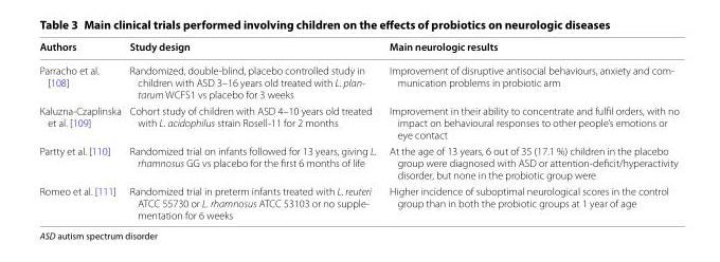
<table><thead><tr><td>Authors</td><td>Study design</td><td>Main neurologic results</td></tr></thead><tbody><tr><td>Parracho et al. [108]</td><td>Randomized, double-blind, placebo controlled study in children with ASD 3–16 years old treated with L. plan- tarum WCFS1 vs placebo for 3 weeks</td><td>Improvement of disruptive antisocial behaviours, anxiety and com- munication problems in probiotic arm</td></tr><tr><td>Kaluzna-Czaplinska et al. [109]</td><td>Cohort study of children with ASD 4–10 years old treated with L. acidophilus strain Rosell-11 for 2 months</td><td>Improvement in their ability to concentrate and fulfil orders, with no impact on behavioural responses to other people’s emotions or eye contact</td></tr><tr><td>Partty et al. [110]</td><td>Randomized trial on infants followed for 13 years, giving L. rhamnosus GG vs placebo for the first 6 months of life</td><td>At the age of 13 years, 6 out of 35 (17.1 %) children in the placebo group were diagnosed with ASD or attention-deficit/hyperactivity disorder, but none in the probiotic group were</td></tr><tr><td>Romeo et al. [111]</td><td>Randomized trial in preterm infants treated with L. reuteri ATCC 55730 or L. rhamnosus ATCC 53103 or no supple- mentation for 6 weeks</td><td>Higher incidence of suboptimal neurological scores in the control group than in both the probiotic groups at 1 year of age</td></tr></tbody></table>